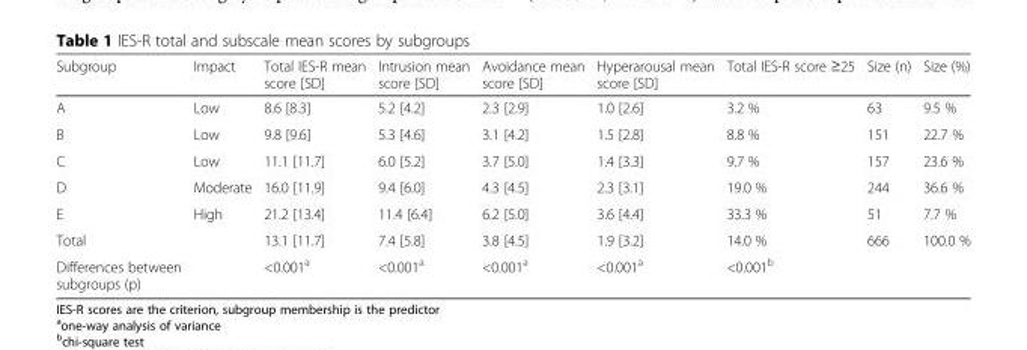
<table><thead><tr><td>Subgroup</td><td>Impact</td><td>Total IES-R mean score [SD]</td><td>Intrusion mean score [SD]</td><td>Avoidance mean score [SD]</td><td>Hyperarousal mean score [SD]</td><td>Total IES-R score ≥25</td><td>Size (n)</td><td>Size (%)</td></tr></thead><tbody><tr><td>A</td><td>Low</td><td>8.6 [8.3]</td><td>5.2 [4.2]</td><td>2.3 [2.9]</td><td>1.0 [2.6]</td><td>3.2 %</td><td>63</td><td>9.5 %</td></tr><tr><td>B</td><td>Low</td><td>9.8 [9.6]</td><td>5.3 [4.6]</td><td>3.1 [4.2]</td><td>1.5 [2.8]</td><td>8.8 %</td><td>151</td><td>22.7 %</td></tr><tr><td>C</td><td>Low</td><td>11.1 [11.7]</td><td>6.0 [5.2]</td><td>3.7 [5.0]</td><td>1.4 [3.3]</td><td>9.7 %</td><td>157</td><td>23.6 %</td></tr><tr><td>D</td><td>Moderate</td><td>16.0 [11.9]</td><td>9.4 [6.0]</td><td>4.3 [4.5]</td><td>2.3 [3.1]</td><td>19.0 %</td><td>244</td><td>36.6 %</td></tr><tr><td>E</td><td>High</td><td>21.2 [13.4]</td><td>11.4 [6.4]</td><td>6.2 [5.0]</td><td>3.6 [4.4]</td><td>33.3 %</td><td>51</td><td>7.7 %</td></tr><tr><td>Total</td><td></td><td>13.1 [11.7]</td><td>7.4 [5.8]</td><td>3.8 [4.5]</td><td>1.9 [3.2]</td><td>14.0 %</td><td>666</td><td>100.0 %</td></tr><tr><td>Differences between subgroups (p)</td><td></td><td>&lt;0.001<sup>a</sup></td><td>&lt;0.001<sup>a</sup></td><td>&lt;0.001<sup>a</sup></td><td>&lt;0.001<sup>a</sup></td><td>&lt;0.001<sup>b</sup></td><td></td><td></td></tr></tbody></table>